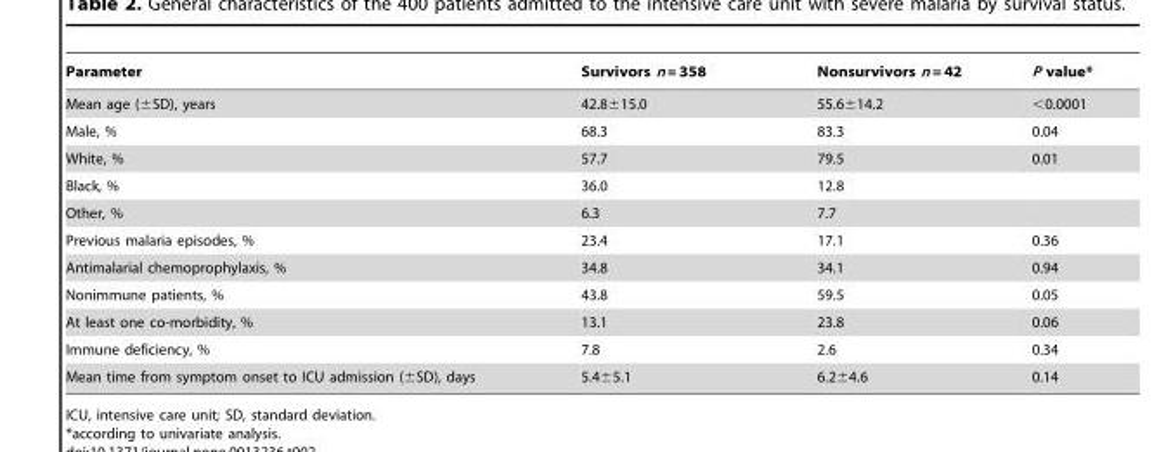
<table><thead><tr><td>Parameter</td><td>Survivors n = 358</td><td>Nonsurvivors n = 42</td><td>P value*</td></tr></thead><tbody><tr><td>Mean age (±SD), years</td><td>42.8±15.0</td><td>55.6±14.2</td><td>&lt;0.0001</td></tr><tr><td>Male, %</td><td>68.3</td><td>83.3</td><td>0.04</td></tr><tr><td>White, %</td><td>57.7</td><td>79.5</td><td>0.01</td></tr><tr><td>Black, %</td><td>36.0</td><td>12.8</td><td></td></tr><tr><td>Other, %</td><td>6.3</td><td>7.7</td><td></td></tr><tr><td>Previous malaria episodes, %</td><td>23.4</td><td>17.1</td><td>0.36</td></tr><tr><td>Antimalarial chemoprophylaxis, %</td><td>34.8</td><td>34.1</td><td>0.94</td></tr><tr><td>Nonimmune patients, %</td><td>43.8</td><td>59.5</td><td>0.05</td></tr><tr><td>At least one co-morbidity, %</td><td>13.1</td><td>23.8</td><td>0.06</td></tr><tr><td>Immune deficiency, %</td><td>7.8</td><td>2.6</td><td>0.34</td></tr><tr><td>Mean time from symptom onset to ICU admission (±SD), days</td><td>5.4±5.1</td><td>6.2±4.6</td><td>0.14</td></tr></tbody></table>